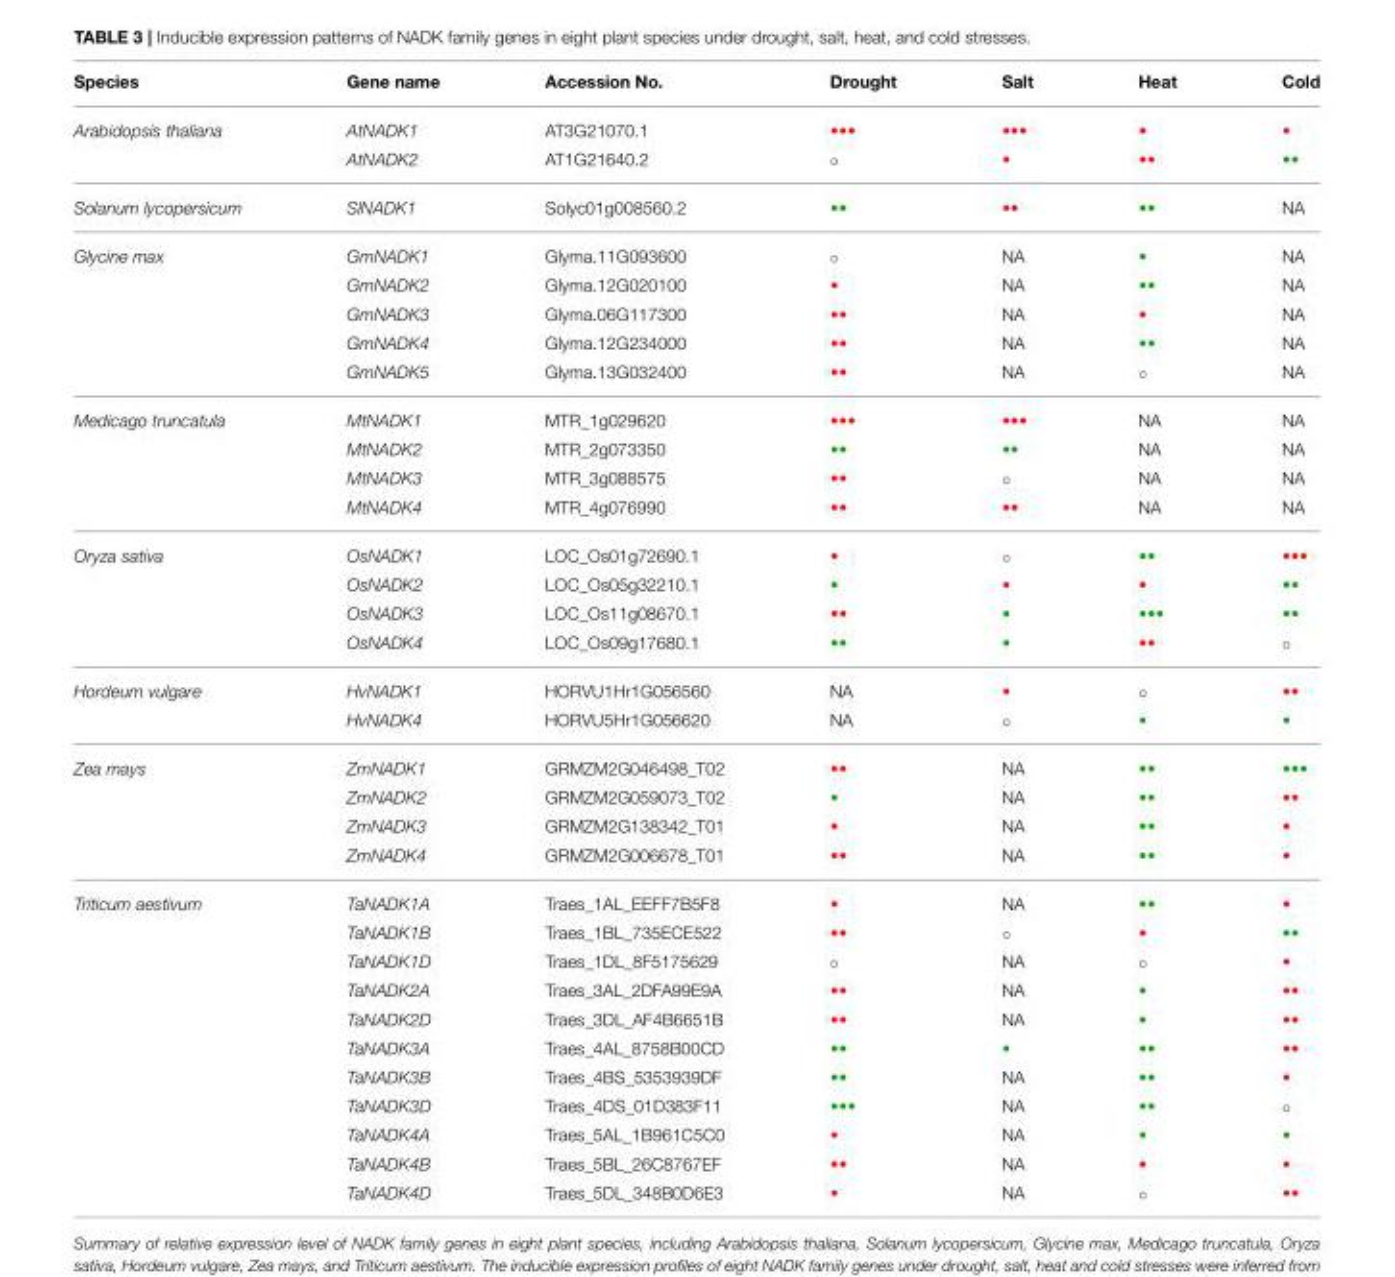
<table><thead><tr><td>Species</td><td>Gene name</td><td>Accession No.</td><td>Drought</td><td>Salt</td><td>Heat</td><td>Cold</td></tr></thead><tbody><tr><td rowspan="2">Arabidopsis thaliana</td><td>AtNADK1</td><td>AT3G21070.1</td><td>•••</td><td>•••</td><td>•</td><td>•</td></tr><tr><td>AtNADK2</td><td>AT1G21640.2</td><td>◦</td><td>•</td><td>••</td><td>••</td></tr><tr><td>Solanum lycopersicum</td><td>SlNADK1</td><td>Solyc01g008560.2</td><td>••</td><td>••</td><td>••</td><td>NA</td></tr><tr><td rowspan="5">Glycine max</td><td>GmNADK1</td><td>Glyma.11G093600</td><td>◦</td><td>NA</td><td>•</td><td>NA</td></tr><tr><td>GmNADK2</td><td>Glyma.12G020100</td><td>•</td><td>NA</td><td>••</td><td>NA</td></tr><tr><td>GmNADK3</td><td>Glyma.06G117300</td><td>••</td><td>NA</td><td>•</td><td>NA</td></tr><tr><td>GmNADK4</td><td>Glyma.12G234000</td><td>••</td><td>NA</td><td>••</td><td>NA</td></tr><tr><td>GmNADK5</td><td>Glyma.13G032400</td><td>••</td><td>NA</td><td>◦</td><td>NA</td></tr><tr><td rowspan="4">Medicago truncatula</td><td>MtNADK1</td><td>MTR_1g029620</td><td>•••</td><td>•••</td><td>NA</td><td>NA</td></tr><tr><td>MtNADK2</td><td>MTR_2g073350</td><td>••</td><td>••</td><td>NA</td><td>NA</td></tr><tr><td>MtNADK3</td><td>MTR_3g088575</td><td>••</td><td>◦</td><td>NA</td><td>NA</td></tr><tr><td>MtNADK4</td><td>MTR_4g076990</td><td>••</td><td>••</td><td>NA</td><td>NA</td></tr><tr><td rowspan="4">Oryza sativa</td><td>OsNADK1</td><td>LOC_Os01g72690.1</td><td>•</td><td>◦</td><td>••</td><td>•••</td></tr><tr><td>OsNADK2</td><td>LOC_Os05g32210.1</td><td>•</td><td>•</td><td>•</td><td>••</td></tr><tr><td>OsNADK3</td><td>LOC_Os11g08670.1</td><td>••</td><td>•</td><td>•••</td><td>••</td></tr><tr><td>OsNADK4</td><td>LOC_Os09g17680.1</td><td>••</td><td>•</td><td>••</td><td>◦</td></tr><tr><td rowspan="2">Hordeum vulgare</td><td>HvNADK1</td><td>HORVU1Hr1G056560</td><td>NA</td><td>•</td><td>◦</td><td>••</td></tr><tr><td>HvNADK4</td><td>HORVU5Hr1G056620</td><td>NA</td><td>◦</td><td>•</td><td>•</td></tr><tr><td rowspan="4">Zea mays</td><td>ZmNADK1</td><td>GRMZM2G046498_T02</td><td>••</td><td>NA</td><td>••</td><td>•••</td></tr><tr><td>ZmNADK2</td><td>GRMZM2G059073_T02</td><td>•</td><td>NA</td><td>••</td><td>••</td></tr><tr><td>ZmNADK3</td><td>GRMZM2G138342_T01</td><td>•</td><td>NA</td><td>••</td><td>•</td></tr><tr><td>ZmNADK4</td><td>GRMZM2G006678_T01</td><td>••</td><td>NA</td><td>••</td><td>•</td></tr><tr><td rowspan="11">Triticum aestivum</td><td>TaNADK1A</td><td>Traes_1AL_EEFF7B5F8</td><td>•</td><td>NA</td><td>••</td><td>•</td></tr><tr><td>TaNADK1B</td><td>Traes_1BL_735ECE522</td><td>••</td><td>◦</td><td>•</td><td>••</td></tr><tr><td>TaNADK1D</td><td>Traes_1DL_8F5175629</td><td>◦</td><td>NA</td><td>◦</td><td>•</td></tr><tr><td>TaNADK2A</td><td>Traes_3AL_2DFA99E9A</td><td>••</td><td>NA</td><td>•</td><td>••</td></tr><tr><td>TaNADK2D</td><td>Traes_3DL_AF4B6651B</td><td>••</td><td>NA</td><td>•</td><td>••</td></tr><tr><td>TaNADK3A</td><td>Traes_4AL_8758B00CD</td><td>••</td><td>•</td><td>••</td><td>••</td></tr><tr><td>TaNADK3B</td><td>Traes_4BS_5353939DF</td><td>••</td><td>NA</td><td>••</td><td>•</td></tr><tr><td>TaNADK3D</td><td>Traes_4DS_01D383F11</td><td>•••</td><td>NA</td><td>••</td><td>◦</td></tr><tr><td>TaNADK4A</td><td>Traes_5AL_1B961C5C0</td><td>•</td><td>NA</td><td>•</td><td>•</td></tr><tr><td>TaNADK4B</td><td>Traes_5BL_26C8767EF</td><td>••</td><td>NA</td><td>•</td><td>•</td></tr><tr><td>TaNADK4D</td><td>Traes_5DL_348B0D6E3</td><td>•</td><td>NA</td><td>◦</td><td>••</td></tr></tbody></table>